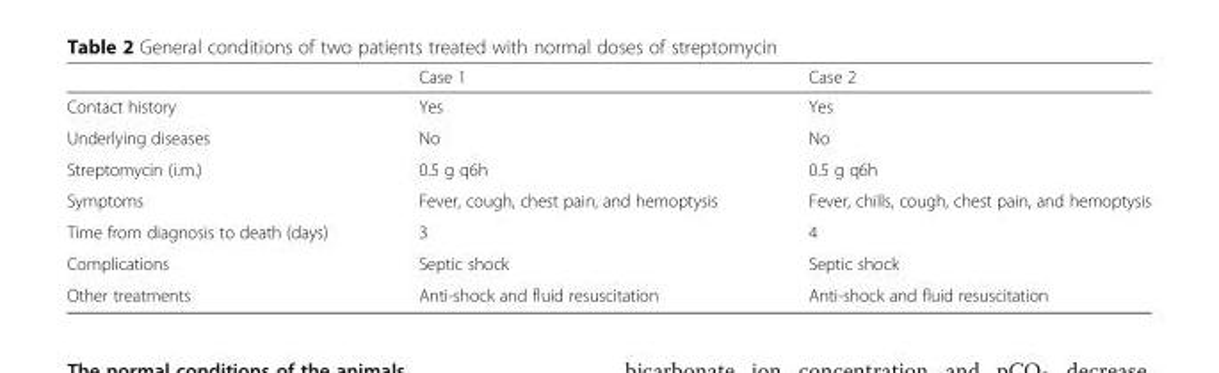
<table><thead><tr><td></td><td>Case 1</td><td>Case 2</td></tr></thead><tbody><tr><td>Contact history</td><td>Yes</td><td>Yes</td></tr><tr><td>Underlying diseases</td><td>No</td><td>No</td></tr><tr><td>Streptomycin (i.m.)</td><td>0.5 g q6h</td><td>0.5 g q6h</td></tr><tr><td>Symptoms</td><td>Fever, cough, chest pain, and hemoptysis</td><td>Fever, chills, cough, chest pain, and hemoptysis</td></tr><tr><td>Time from diagnosis to death (days)</td><td>3</td><td>4</td></tr><tr><td>Complications</td><td>Septic shock</td><td>Septic shock</td></tr><tr><td>Other treatments</td><td>Anti-shock and fluid resuscitation</td><td>Anti-shock and fluid resuscitation</td></tr></tbody></table>